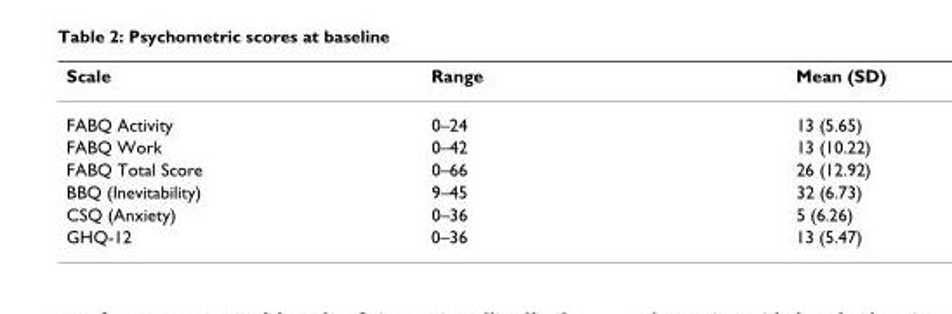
<table><thead><tr><td>Scale</td><td>Range</td><td>Mean (SD)</td></tr></thead><tbody><tr><td>FABQ Activity</td><td>0–24</td><td>13 (5.65)</td></tr><tr><td>FABQ Work</td><td>0–42</td><td>13 (10.22)</td></tr><tr><td>FABQ Total Score</td><td>0–66</td><td>26 (12.92)</td></tr><tr><td>BBQ (Inevitability)</td><td>9–45</td><td>32 (6.73)</td></tr><tr><td>CSQ (Anxiety)</td><td>0–36</td><td>5 (6.26)</td></tr><tr><td>GHQ-12</td><td>0–36</td><td>13 (5.47)</td></tr></tbody></table>